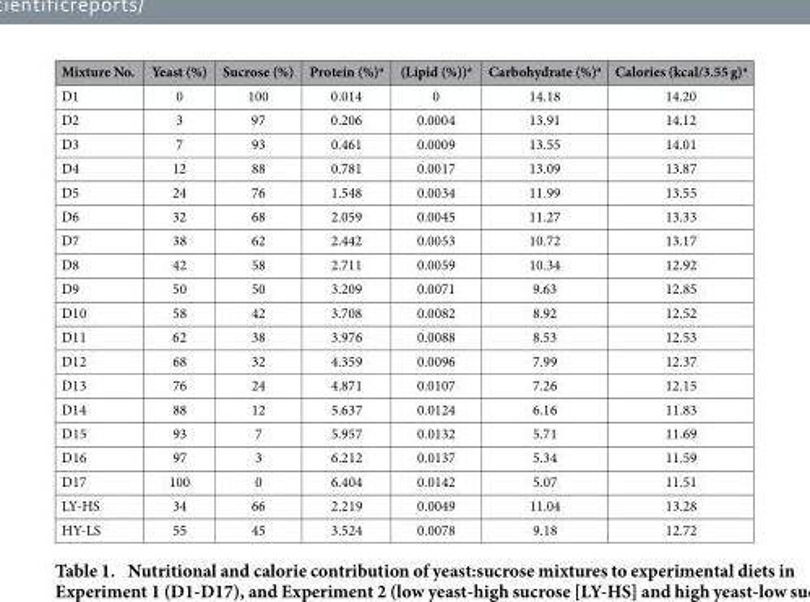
<table><thead><tr><td>Mixture No.</td><td>Yeast (%)</td><td>Sucrose (%)</td><td>Protein (%)<sup>a</sup></td><td>(Lipid (%))<sup>a</sup></td><td>Carbohydrate (%)<sup>a</sup></td><td>Calories (kcal/3.55 g)<sup>a</sup></td></tr></thead><tbody><tr><td>D1</td><td>0</td><td>100</td><td>0.014</td><td>0</td><td>14.18</td><td>14.20</td></tr><tr><td>D2</td><td>3</td><td>97</td><td>0.206</td><td>0.0004</td><td>13.91</td><td>14.12</td></tr><tr><td>D3</td><td>7</td><td>93</td><td>0.461</td><td>0.0009</td><td>13.55</td><td>14.01</td></tr><tr><td>D4</td><td>12</td><td>88</td><td>0.781</td><td>0.0017</td><td>13.09</td><td>13.87</td></tr><tr><td>D5</td><td>24</td><td>76</td><td>1.548</td><td>0.0034</td><td>11.99</td><td>13.55</td></tr><tr><td>D6</td><td>32</td><td>68</td><td>2.059</td><td>0.0045</td><td>11.27</td><td>13.33</td></tr><tr><td>D7</td><td>38</td><td>62</td><td>2.442</td><td>0.0053</td><td>10.72</td><td>13.17</td></tr><tr><td>D8</td><td>42</td><td>58</td><td>2.711</td><td>0.0059</td><td>10.34</td><td>12.92</td></tr><tr><td>D9</td><td>50</td><td>50</td><td>3.209</td><td>0.0071</td><td>9.63</td><td>12.85</td></tr><tr><td>D10</td><td>58</td><td>42</td><td>3.708</td><td>0.0082</td><td>8.92</td><td>12.52</td></tr><tr><td>D11</td><td>62</td><td>38</td><td>3.976</td><td>0.0088</td><td>8.53</td><td>12.53</td></tr><tr><td>D12</td><td>68</td><td>32</td><td>4.359</td><td>0.0096</td><td>7.99</td><td>12.37</td></tr><tr><td>D13</td><td>76</td><td>24</td><td>4.871</td><td>0.0107</td><td>7.26</td><td>12.15</td></tr><tr><td>D14</td><td>88</td><td>12</td><td>5.637</td><td>0.0124</td><td>6.16</td><td>11.83</td></tr><tr><td>D15</td><td>93</td><td>7</td><td>5.957</td><td>0.0132</td><td>5.71</td><td>11.69</td></tr><tr><td>D16</td><td>97</td><td>3</td><td>6.212</td><td>0.0137</td><td>5.34</td><td>11.59</td></tr><tr><td>D17</td><td>100</td><td>0</td><td>6.404</td><td>0.0142</td><td>5.07</td><td>11.51</td></tr><tr><td>LY-HS</td><td>34</td><td>66</td><td>2.219</td><td>0.0049</td><td>11.04</td><td>13.28</td></tr><tr><td>HY-LS</td><td>55</td><td>45</td><td>3.524</td><td>0.0078</td><td>9.18</td><td>12.72</td></tr></tbody></table>